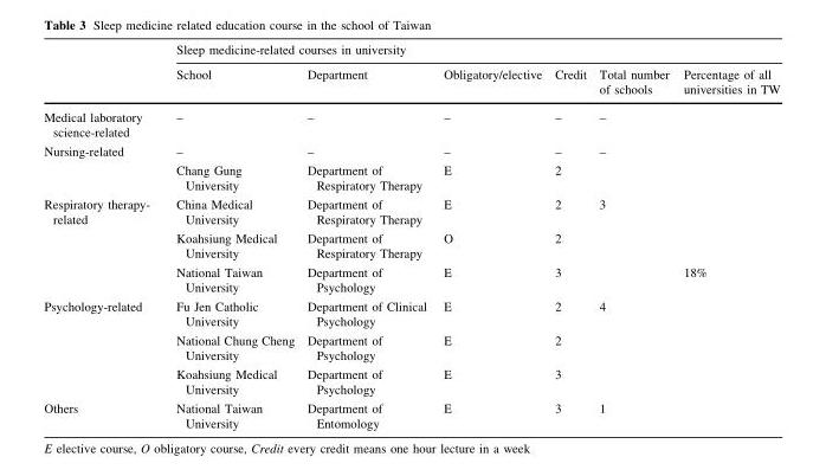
<table><thead><tr><td rowspan="2"></td><td colspan="6">Sleep medicine-related courses in university</td></tr><tr><td>School</td><td>Department</td><td>Obligatory/elective</td><td>Credit</td><td>Total number of schools</td><td>Percentage of all universities in TW</td></tr></thead><tbody><tr><td>Medical laboratory science-related</td><td>–</td><td>–</td><td>–</td><td>–</td><td>–</td><td></td></tr><tr><td rowspan="2">Nursing-related</td><td>–</td><td>–</td><td>–</td><td>–</td><td>–</td><td></td></tr><tr><td>Chang Gung University</td><td>Department of Respiratory Therapy</td><td>E</td><td>2</td><td></td><td></td></tr><tr><td rowspan="3">Respiratory therapy- related</td><td>China Medical University</td><td>Department of Respiratory Therapy</td><td>E</td><td>2</td><td>3</td><td></td></tr><tr><td>Koahsiung Medical University</td><td>Department of Respiratory Therapy</td><td>O</td><td>2</td><td></td><td></td></tr><tr><td>National Taiwan University</td><td>Department of Psychology</td><td>E</td><td>3</td><td></td><td>18%</td></tr><tr><td rowspan="3">Psychology-related</td><td>Fu Jen Catholic University</td><td>Department of Clinical Psychology</td><td>E</td><td>2</td><td>4</td><td></td></tr><tr><td>National Chung Cheng University</td><td>Department of Psychology</td><td>E</td><td>2</td><td></td><td></td></tr><tr><td>Koahsiung Medical University</td><td>Department of Psychology</td><td>E</td><td>3</td><td></td><td></td></tr><tr><td>Others</td><td>National Taiwan University</td><td>Department of Entomology</td><td>E</td><td>3</td><td>1</td><td></td></tr></tbody></table>